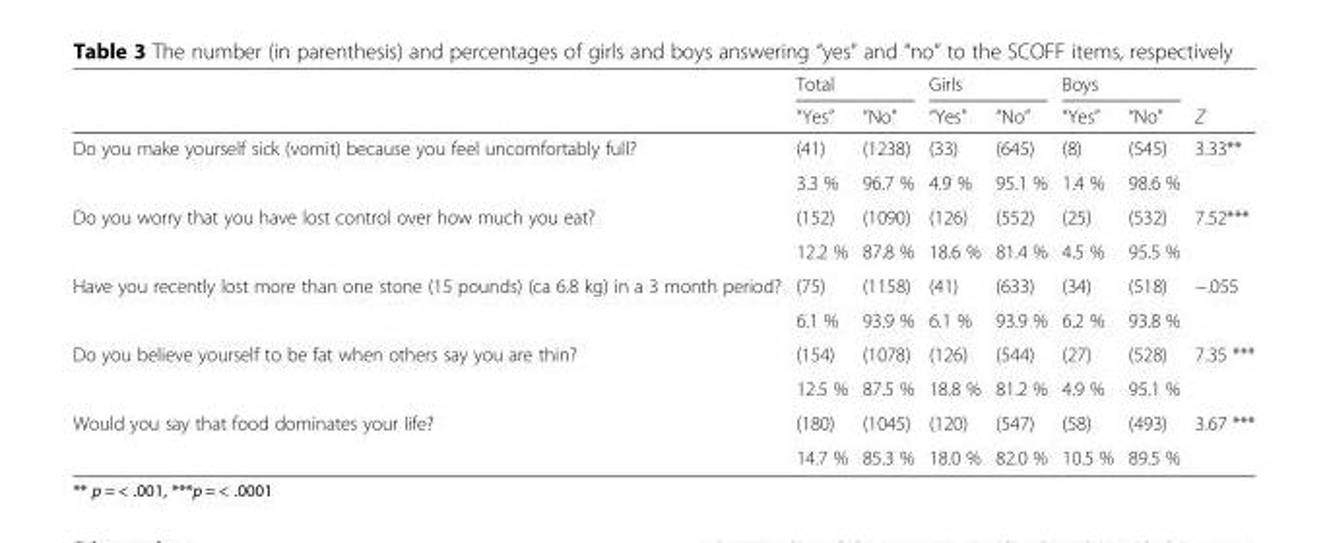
<table><thead><tr><td rowspan="2"></td><td colspan="2">Total</td><td colspan="2">Girls</td><td colspan="2">Boys</td><td rowspan="2">Z</td></tr><tr><td>“Yes”</td><td>“No”</td><td>“Yes”</td><td>“No”</td><td>“Yes”</td><td>“No”</td></tr></thead><tbody><tr><td rowspan="2">Do you make yourself sick (vomit) because you feel uncomfortably full?</td><td>(41)</td><td>(1238)</td><td>(33)</td><td>(645)</td><td>(8)</td><td>(545)</td><td rowspan="2">3.33**</td></tr><tr><td>3.3 %</td><td>96.7 %</td><td>4.9 %</td><td>95.1 %</td><td>1.4 %</td><td>98.6 %</td></tr><tr><td rowspan="2">Do you worry that you have lost control over how much you eat?</td><td>(152)</td><td>(1090)</td><td>(126)</td><td>(552)</td><td>(25)</td><td>(532)</td><td rowspan="2">7.52***</td></tr><tr><td>12.2 %</td><td>87.8 %</td><td>18.6 %</td><td>81.4 %</td><td>4.5 %</td><td>95.5 %</td></tr><tr><td rowspan="2">Have you recently lost more than one stone (15 pounds) (ca 6.8 kg) in a 3 month period?</td><td>(75)</td><td>(1158)</td><td>(41)</td><td>(633)</td><td>(34)</td><td>(518)</td><td rowspan="2">−.055</td></tr><tr><td>6.1 %</td><td>93.9 %</td><td>6.1 %</td><td>93.9 %</td><td>6.2 %</td><td>93.8 %</td></tr><tr><td rowspan="2">Do you believe yourself to be fat when others say you are thin?</td><td>(154)</td><td>(1078)</td><td>(126)</td><td>(544)</td><td>(27)</td><td>(528)</td><td rowspan="2">7.35 ***</td></tr><tr><td>12.5 %</td><td>87.5 %</td><td>18.8 %</td><td>81.2 %</td><td>4.9 %</td><td>95.1 %</td></tr><tr><td rowspan="2">Would you say that food dominates your life?</td><td>(180)</td><td>(1045)</td><td>(120)</td><td>(547)</td><td>(58)</td><td>(493)</td><td rowspan="2">3.67 ***</td></tr><tr><td>14.7 %</td><td>85.3 %</td><td>18.0 %</td><td>82.0 %</td><td>10.5 %</td><td>89.5 %</td></tr></tbody></table>